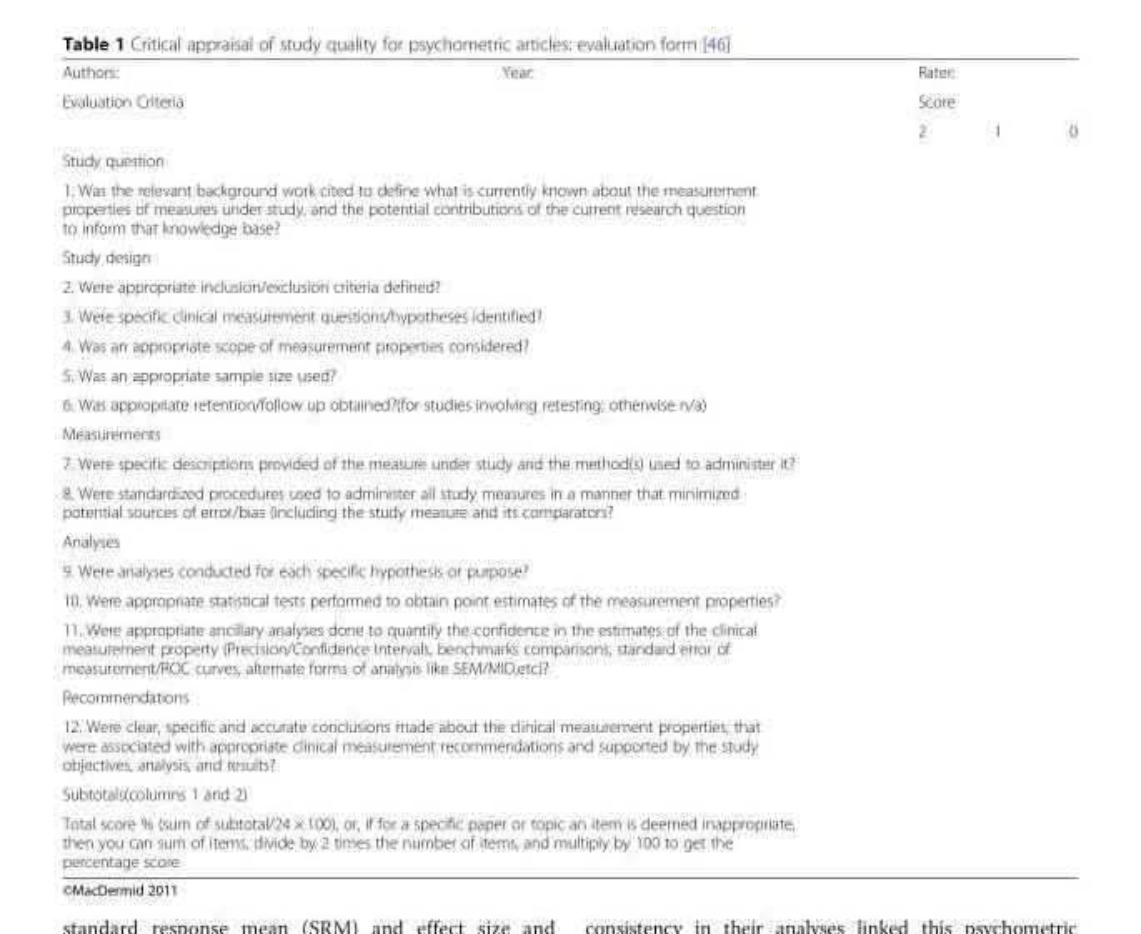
<table><tbody><tr><td>Authors:</td><td>Year:</td><td colspan="3">Rater:</td></tr><tr><td rowspan="2" colspan="2">Evaluation Criteria</td><td colspan="3">Score</td></tr><tr><td>2</td><td>1</td><td>0</td></tr><tr><td colspan="5">Study question</td></tr><tr><td colspan="5">1. Was the relevant background work cited to define what is currently known about the measurement properties of measures under study, and the potential contributions of the current research question to inform that knowledge base?</td></tr><tr><td colspan="5">Study design</td></tr><tr><td colspan="5">2. Were appropriate inclusion/exclusion criteria defined?</td></tr><tr><td colspan="5">3. Were specific clinical measurement questions/hypotheses identified?</td></tr><tr><td colspan="5">4. Was an appropriate scope of measurement properties considered?</td></tr><tr><td colspan="5">5. Was an appropriate sample size used?</td></tr><tr><td colspan="5">6. Was appropriate retention/follow up obtained?(for studies involving retesting; otherwise n/a)</td></tr><tr><td colspan="5">Measurements</td></tr><tr><td colspan="5">7. Were specific descriptions provided of the measure under study and the method(s) used to administer it?</td></tr><tr><td colspan="5">8. Were standardized procedures used to administer all study measures in a manner that minimized potential sources of error/bias (including the study measure and its comparators?</td></tr><tr><td colspan="5">Analyses</td></tr><tr><td colspan="5">9. Were analyses conducted for each specific hypothesis or purpose?</td></tr><tr><td colspan="5">10. Were appropriate statistical tests performed to obtain point estimates of the measurement properties?</td></tr><tr><td colspan="5">11. Were appropriate ancillary analyses done to quantify the confidence in the estimates of the clinical measurement property (Precision/Confidence Intervals, benchmarks comparisons, standard error of measurement/ROC curves, alternate forms of analysis like SEM/MID,etc)?</td></tr><tr><td colspan="5">Recommendations</td></tr><tr><td colspan="5">12. Were clear, specific and accurate conclusions made about the clinical measurement properties; that were associated with appropriate clinical measurement recommendations and supported by the study objectives, analysis, and results?</td></tr><tr><td colspan="5">Subtotals(columns 1 and 2)</td></tr><tr><td colspan="2">Total score % (sum of subtotal/24 × 100), or, if for a specific paper or topic an item is deemed inappropriate, then you can sum of items, divide by 2 times the number of items, and multiply by 100 to get the percentage score</td><td></td><td></td><td></td></tr></tbody></table>